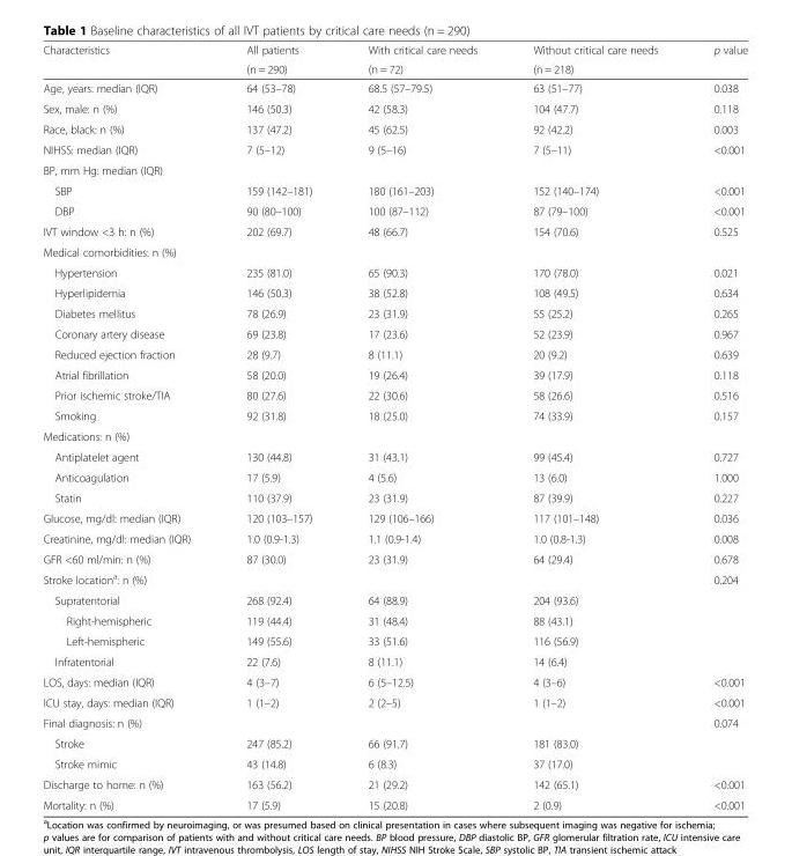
<table><thead><tr><td rowspan="2">Characteristics</td><td rowspan="2">All patients (n = 290)</td><td rowspan="2">With critical care needs (n = 72)</td><td rowspan="2">Without critical care needs (n = 218)</td><td rowspan="2">p value</td></tr><tr></tr></thead><tbody><tr><td>Age, years: median (IQR)</td><td>64 (53–78)</td><td>68.5 (57–79.5)</td><td>63 (51–77)</td><td>0.038</td></tr><tr><td>Sex, male: n (%)</td><td>146 (50.3)</td><td>42 (58.3)</td><td>104 (47.7)</td><td>0.118</td></tr><tr><td>Race, black: n (%)</td><td>137 (47.2)</td><td>45 (62.5)</td><td>92 (42.2)</td><td>0.003</td></tr><tr><td>NIHSS: median (IQR)</td><td>7 (5–12)</td><td>9 (5–16)</td><td>7 (5–11)</td><td>&lt;0.001</td></tr><tr><td colspan="5">BP, mm Hg: median (IQR)</td></tr><tr><td>SBP</td><td>159 (142–181)</td><td>180 (161–203)</td><td>152 (140–174)</td><td>&lt;0.001</td></tr><tr><td>DBP</td><td>90 (80–100)</td><td>100 (87–112)</td><td>87 (79–100)</td><td>&lt;0.001</td></tr><tr><td>IVT window &lt;3 h: n (%)</td><td>202 (69.7)</td><td>48 (66.7)</td><td>154 (70.6)</td><td>0.525</td></tr><tr><td colspan="5">Medical comorbidities: n (%)</td></tr><tr><td>Hypertension</td><td>235 (81.0)</td><td>65 (90.3)</td><td>170 (78.0)</td><td>0.021</td></tr><tr><td>Hyperlipidemia</td><td>146 (50.3)</td><td>38 (52.8)</td><td>108 (49.5)</td><td>0.634</td></tr><tr><td>Diabetes mellitus</td><td>78 (26.9)</td><td>23 (31.9)</td><td>55 (25.2)</td><td>0.265</td></tr><tr><td>Coronary artery disease</td><td>69 (23.8)</td><td>17 (23.6)</td><td>52 (23.9)</td><td>0.967</td></tr><tr><td>Reduced ejection fraction</td><td>28 (9.7)</td><td>8 (11.1)</td><td>20 (9.2)</td><td>0.639</td></tr><tr><td>Atrial fibrillation</td><td>58 (20.0)</td><td>19 (26.4)</td><td>39 (17.9)</td><td>0.118</td></tr><tr><td>Prior ischemic stroke/TIA</td><td>80 (27.6)</td><td>22 (30.6)</td><td>58 (26.6)</td><td>0.516</td></tr><tr><td>Smoking</td><td>92 (31.8)</td><td>18 (25.0)</td><td>74 (33.9)</td><td>0.157</td></tr><tr><td colspan="5">Medications: n (%)</td></tr><tr><td>Antiplatelet agent</td><td>130 (44.8)</td><td>31 (43.1)</td><td>99 (45.4)</td><td>0.727</td></tr><tr><td>Anticoagulation</td><td>17 (5.9)</td><td>4 (5.6)</td><td>13 (6.0)</td><td>1.000</td></tr><tr><td>Statin</td><td>110 (37.9)</td><td>23 (31.9)</td><td>87 (39.9)</td><td>0.227</td></tr><tr><td>Glucose, mg/dl: median (IQR)</td><td>120 (103–157)</td><td>129 (106–166)</td><td>117 (101–148)</td><td>0.036</td></tr><tr><td>Creatinine, mg/dl: median (IQR)</td><td>1.0 (0.9-1.3)</td><td>1.1 (0.9-1.4)</td><td>1.0 (0.8-1.3)</td><td>0.008</td></tr><tr><td>GFR &lt;60 ml/min: n (%)</td><td>87 (30.0)</td><td>23 (31.9)</td><td>64 (29.4)</td><td>0.678</td></tr><tr><td>Stroke location<sup>a</sup>: n (%)</td><td></td><td></td><td></td><td>0.204</td></tr><tr><td>Supratentorial</td><td>268 (92.4)</td><td>64 (88.9)</td><td>204 (93.6)</td><td></td></tr><tr><td>Right-hemispheric</td><td>119 (44.4)</td><td>31 (48.4)</td><td>88 (43.1)</td><td></td></tr><tr><td>Left-hemispheric</td><td>149 (55.6)</td><td>33 (51.6)</td><td>116 (56.9)</td><td></td></tr><tr><td>Infratentorial</td><td>22 (7.6)</td><td>8 (11.1)</td><td>14 (6.4)</td><td></td></tr><tr><td>LOS, days: median (IQR)</td><td>4 (3–7)</td><td>6 (5–12.5)</td><td>4 (3–6)</td><td>&lt;0.001</td></tr><tr><td>ICU stay, days: median (IQR)</td><td>1 (1–2)</td><td>2 (2–5)</td><td>1 (1–2)</td><td>&lt;0.001</td></tr><tr><td>Final diagnosis: n (%)</td><td></td><td></td><td></td><td>0.074</td></tr><tr><td>Stroke</td><td>247 (85.2)</td><td>66 (91.7)</td><td>181 (83.0)</td><td></td></tr><tr><td>Stroke mimic</td><td>43 (14.8)</td><td>6 (8.3)</td><td>37 (17.0)</td><td></td></tr><tr><td>Discharge to home: n (%)</td><td>163 (56.2)</td><td>21 (29.2)</td><td>142 (65.1)</td><td>&lt;0.001</td></tr><tr><td>Mortality: n (%)</td><td>17 (5.9)</td><td>15 (20.8)</td><td>2 (0.9)</td><td>&lt;0.001</td></tr></tbody></table>